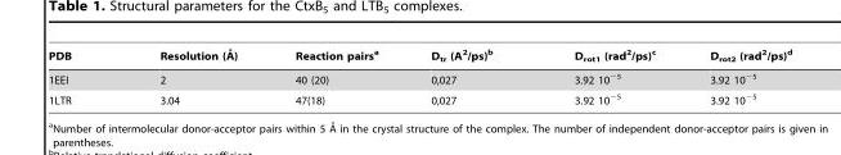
<table><thead><tr><td>PDB</td><td>Resolution (A˚)</td><td>Reaction pairs<sup>a</sup></td><td>D<sub>tr</sub> (A<sup>2</sup>/ps)<sup>b</sup></td><td>D<sub>rot1</sub> (rad<sup>2</sup>/ps)<sup>c</sup></td><td>D<sub>rot2</sub> (rad<sup>2</sup>/ps)<sup>d</sup></td></tr></thead><tbody><tr><td>1EEI</td><td>2</td><td>40 (20)</td><td>0,027</td><td>3.92 10<sup>−5</sup></td><td>3.92 10<sup>−5</sup></td></tr><tr><td>1LTR</td><td>3.04</td><td>47(18)</td><td>0,027</td><td>3.92 10<sup>−5</sup></td><td>3.92 10<sup>−5</sup></td></tr></tbody></table>